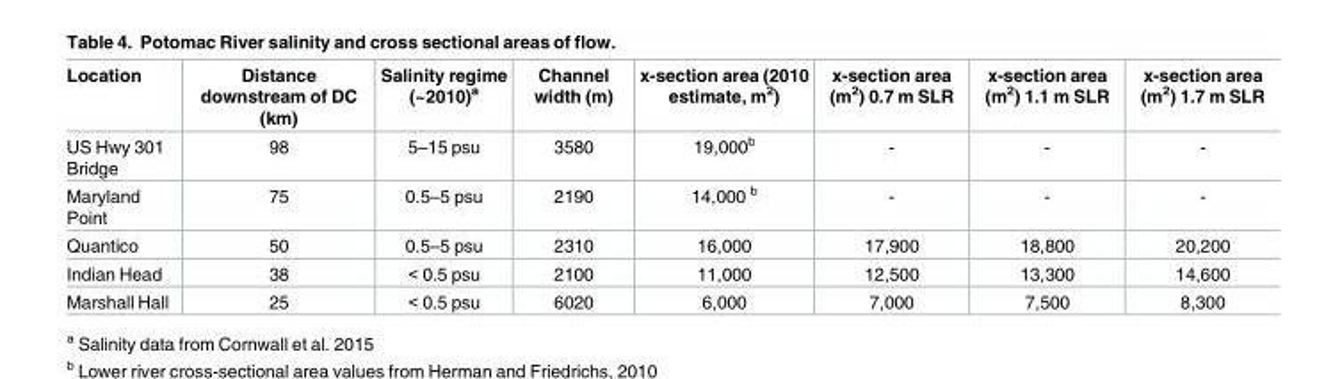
<table><thead><tr><td>Location</td><td>Distance downstream of DC (km)</td><td>Salinity regime (~2010)<sup>a</sup></td><td>Channel width (m)</td><td>x-section area (2010 estimate, m<sup>2</sup>)</td><td>x-section area (m<sup>2</sup>) 0.7 m SLR</td><td>x-section area (m<sup>2</sup>) 1.1 m SLR</td><td>x-section area (m<sup>2</sup>) 1.7 m SLR</td></tr></thead><tbody><tr><td>US Hwy 301 Bridge</td><td>98</td><td>5–15 psu</td><td>3580</td><td>19,000<sup>b</sup></td><td>-</td><td>-</td><td>-</td></tr><tr><td>Maryland Point</td><td>75</td><td>0.5–5 psu</td><td>2190</td><td>14,000 <sup>b</sup></td><td>-</td><td>-</td><td>-</td></tr><tr><td>Quantico</td><td>50</td><td>0.5–5 psu</td><td>2310</td><td>16,000</td><td>17,900</td><td>18,800</td><td>20,200</td></tr><tr><td>Indian Head</td><td>38</td><td>&lt; 0.5 psu</td><td>2100</td><td>11,000</td><td>12,500</td><td>13,300</td><td>14,600</td></tr><tr><td>Marshall Hall</td><td>25</td><td>&lt; 0.5 psu</td><td>6020</td><td>6,000</td><td>7,000</td><td>7,500</td><td>8,300</td></tr></tbody></table>